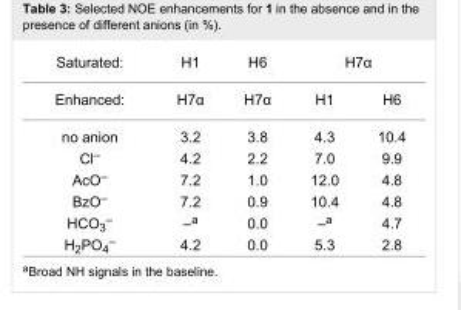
<table><tbody><tr><td>Saturated:</td><td>H1</td><td>H6</td><td colspan="2">H7α</td></tr><tr><td>Enhanced:</td><td>H7α</td><td>H7α</td><td>H1</td><td>H6</td></tr><tr><td>no anion</td><td>3.2</td><td>3.8</td><td>4.3</td><td>10.4</td></tr><tr><td>Cl<sup>–</sup></td><td>4.2</td><td>2.2</td><td>7.0</td><td>9.9</td></tr><tr><td>AcO<sup>–</sup></td><td>7.2</td><td>1.0</td><td>12.0</td><td>4.8</td></tr><tr><td>BzO<sup>–</sup></td><td>7.2</td><td>0.9</td><td>10.4</td><td>4.8</td></tr><tr><td>HCO<sub>3</sub><sup>–</sup></td><td>–<sup>a</sup></td><td>0.0</td><td>–<sup>a</sup></td><td>4.7</td></tr><tr><td>H<sub>2</sub>PO<sub>4</sub><sup>–</sup></td><td>4.2</td><td>0.0</td><td>5.3</td><td>2.8</td></tr></tbody></table>